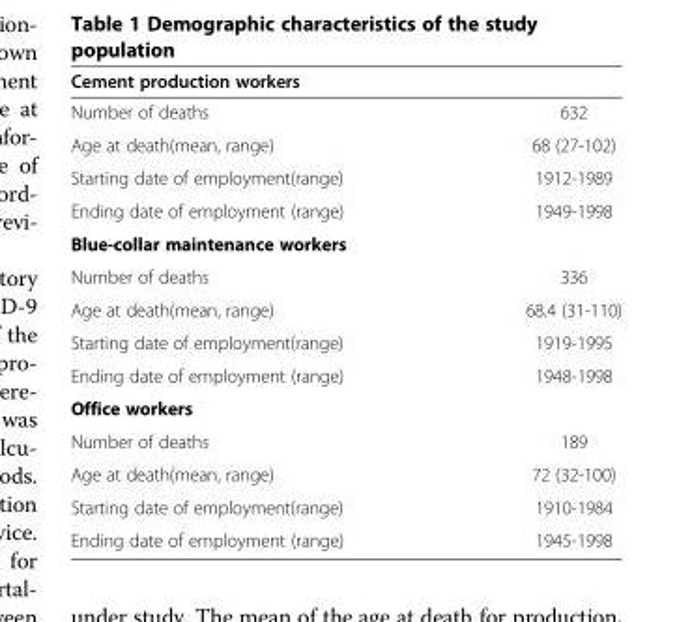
<table><thead><tr><td colspan="2">Cement production workers</td></tr><tr><td>Number of deaths</td><td>632</td></tr></thead><tbody><tr><td>Age at death(mean, range)</td><td>68 (27-102)</td></tr><tr><td>Starting date of employment(range)</td><td>1912-1989</td></tr><tr><td>Ending date of employment (range)</td><td>1949-1998</td></tr><tr><td colspan="2">Blue-collar maintenance workers</td></tr><tr><td>Number of deaths</td><td>336</td></tr><tr><td>Age at death(mean, range)</td><td>68.4 (31-110)</td></tr><tr><td>Starting date of employment(range)</td><td>1919-1995</td></tr><tr><td>Ending date of employment (range)</td><td>1948-1998</td></tr><tr><td colspan="2">Office workers</td></tr><tr><td>Number of deaths</td><td>189</td></tr><tr><td>Age at death(mean, range)</td><td>72 (32-100)</td></tr><tr><td>Starting date of employment(range)</td><td>1910-1984</td></tr><tr><td>Ending date of employment (range)</td><td>1945-1998</td></tr></tbody></table>